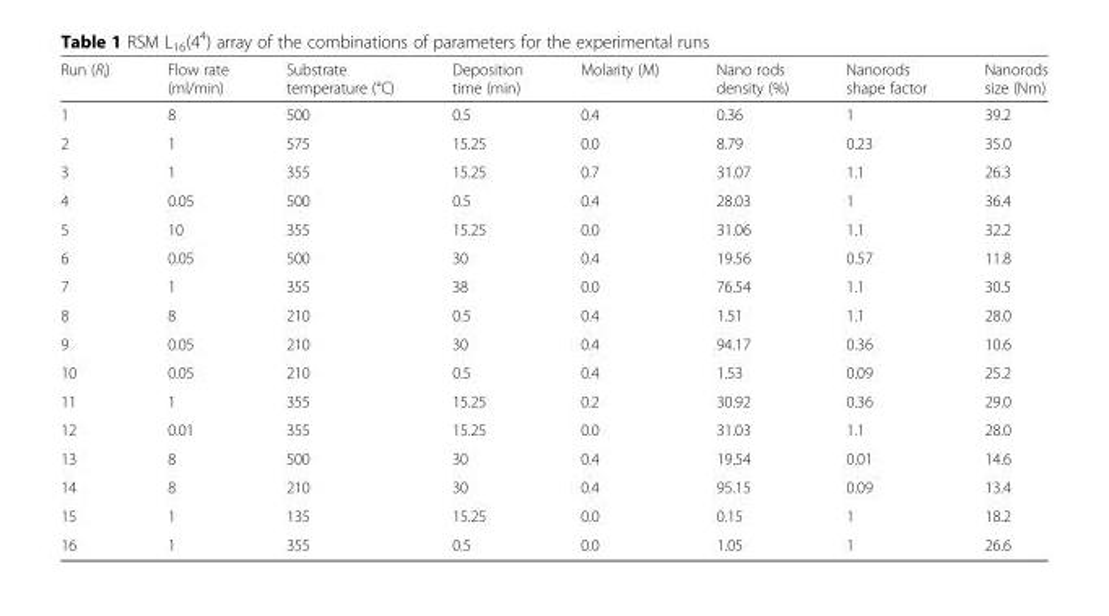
<table><thead><tr><td>Run (R<sub>i</sub>)</td><td>Flow rate (ml/min)</td><td>Substrate temperature (°C)</td><td>Deposition time (min)</td><td>Molarity (M)</td><td>Nano rods density (%)</td><td>Nanorods shape factor</td><td>Nanorods size (Nm)</td></tr></thead><tbody><tr><td>1</td><td>8</td><td>500</td><td>0.5</td><td>0.4</td><td>0.36</td><td>1</td><td>39.2</td></tr><tr><td>2</td><td>1</td><td>575</td><td>15.25</td><td>0.0</td><td>8.79</td><td>0.23</td><td>35.0</td></tr><tr><td>3</td><td>1</td><td>355</td><td>15.25</td><td>0.7</td><td>31.07</td><td>1.1</td><td>26.3</td></tr><tr><td>4</td><td>0.05</td><td>500</td><td>0.5</td><td>0.4</td><td>28.03</td><td>1</td><td>36.4</td></tr><tr><td>5</td><td>10</td><td>355</td><td>15.25</td><td>0.0</td><td>31.06</td><td>1.1</td><td>32.2</td></tr><tr><td>6</td><td>0.05</td><td>500</td><td>30</td><td>0.4</td><td>19.56</td><td>0.57</td><td>11.8</td></tr><tr><td>7</td><td>1</td><td>355</td><td>38</td><td>0.0</td><td>76.54</td><td>1.1</td><td>30.5</td></tr><tr><td>8</td><td>8</td><td>210</td><td>0.5</td><td>0.4</td><td>1.51</td><td>1.1</td><td>28.0</td></tr><tr><td>9</td><td>0.05</td><td>210</td><td>30</td><td>0.4</td><td>94.17</td><td>0.36</td><td>10.6</td></tr><tr><td>10</td><td>0.05</td><td>210</td><td>0.5</td><td>0.4</td><td>1.53</td><td>0.09</td><td>25.2</td></tr><tr><td>11</td><td>1</td><td>355</td><td>15.25</td><td>0.2</td><td>30.92</td><td>0.36</td><td>29.0</td></tr><tr><td>12</td><td>0.01</td><td>355</td><td>15.25</td><td>0.0</td><td>31.03</td><td>1.1</td><td>28.0</td></tr><tr><td>13</td><td>8</td><td>500</td><td>30</td><td>0.4</td><td>19.54</td><td>0.01</td><td>14.6</td></tr><tr><td>14</td><td>8</td><td>210</td><td>30</td><td>0.4</td><td>95.15</td><td>0.09</td><td>13.4</td></tr><tr><td>15</td><td>1</td><td>135</td><td>15.25</td><td>0.0</td><td>0.15</td><td>1</td><td>18.2</td></tr><tr><td>16</td><td>1</td><td>355</td><td>0.5</td><td>0.0</td><td>1.05</td><td>1</td><td>26.6</td></tr></tbody></table>